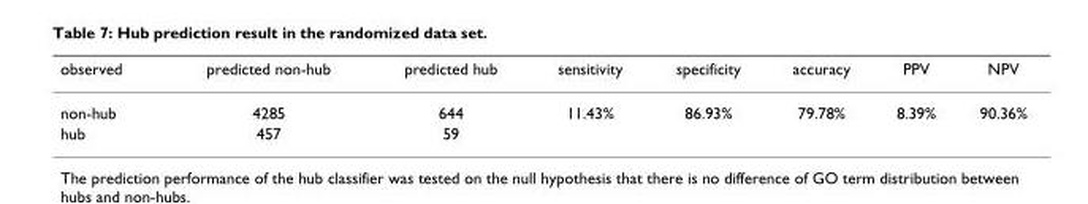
<table><thead><tr><td>observed</td><td>predicted non-hub</td><td>predicted hub</td><td>sensitivity</td><td>specificity</td><td>accuracy</td><td>PPV</td><td>NPV</td></tr></thead><tbody><tr><td>non-hub</td><td>4285</td><td>644</td><td>11.43%</td><td>86.93%</td><td>79.78%</td><td>8.39%</td><td>90.36%</td></tr><tr><td>hub</td><td>457</td><td>59</td><td></td><td></td><td></td><td></td><td></td></tr></tbody></table>